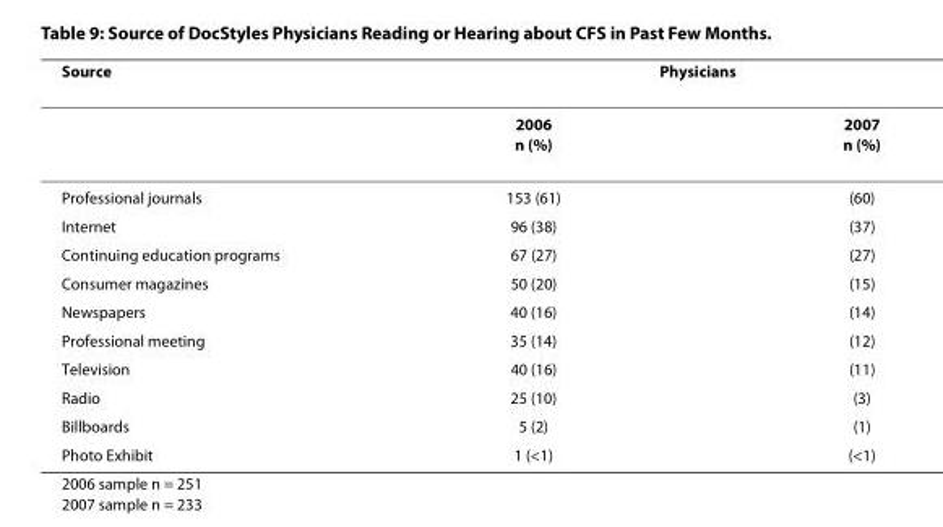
<table><thead><tr><td rowspan="2">Source</td><td colspan="2">Physicians</td></tr><tr><td>2006 n (%)</td><td>2007 n (%)</td></tr></thead><tbody><tr><td>Professional journals</td><td>153 (61)</td><td>(60)</td></tr><tr><td>Internet</td><td>96 (38)</td><td>(37)</td></tr><tr><td>Continuing education programs</td><td>67 (27)</td><td>(27)</td></tr><tr><td>Consumer magazines</td><td>50 (20)</td><td>(15)</td></tr><tr><td>Newspapers</td><td>40 (16)</td><td>(14)</td></tr><tr><td>Professional meeting</td><td>35 (14)</td><td>(12)</td></tr><tr><td>Television</td><td>40 (16)</td><td>(11)</td></tr><tr><td>Radio</td><td>25 (10)</td><td>(3)</td></tr><tr><td>Billboards</td><td>5 (2)</td><td>(1)</td></tr><tr><td>Photo Exhibit</td><td>1 (&lt;1)</td><td>(&lt;1)</td></tr></tbody></table>